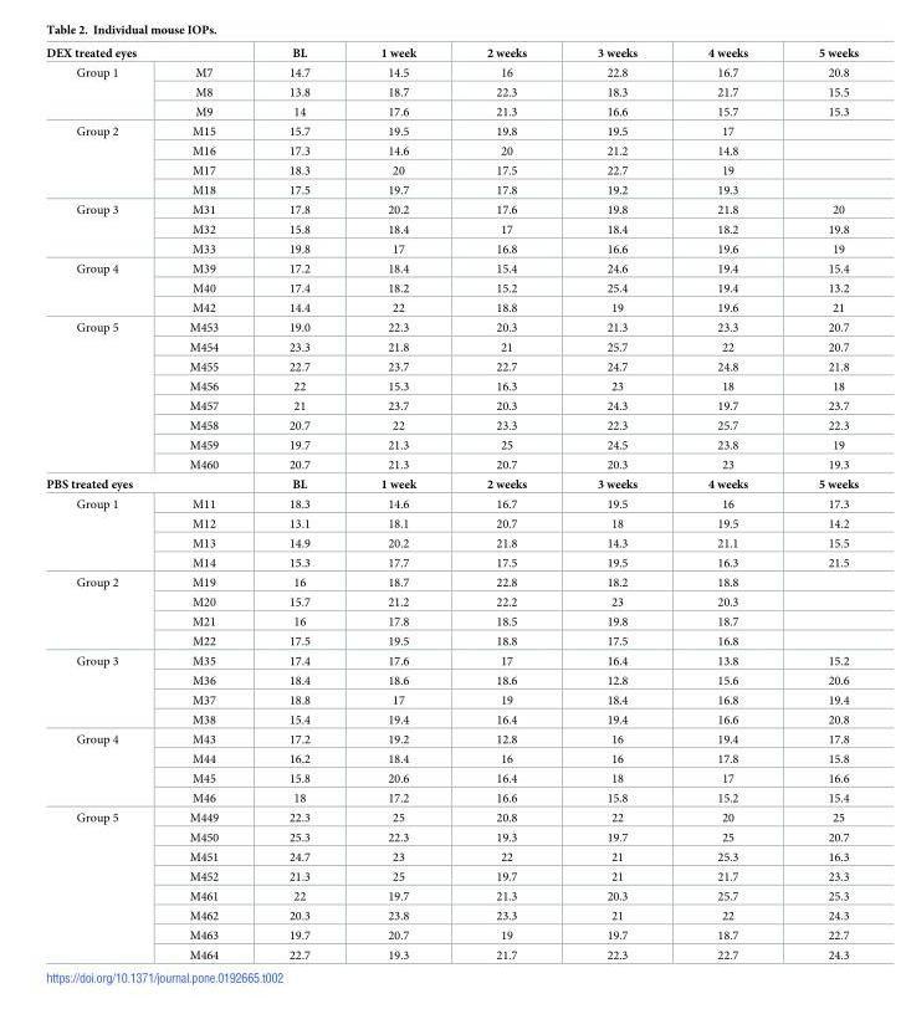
<table><tbody><tr><td colspan="2">DEX treated eyes</td><td>BL</td><td>1 week</td><td>2 weeks</td><td>3 weeks</td><td>4 weeks</td><td>5 weeks</td></tr><tr><td rowspan="3">Group 1</td><td>M7</td><td>14.7</td><td>14.5</td><td>16</td><td>22.8</td><td>16.7</td><td>20.8</td></tr><tr><td>M8</td><td>13.8</td><td>18.7</td><td>22.3</td><td>18.3</td><td>21.7</td><td>15.5</td></tr><tr><td>M9</td><td>14</td><td>17.6</td><td>21.3</td><td>16.6</td><td>15.7</td><td>15.3</td></tr><tr><td rowspan="4">Group 2</td><td>M15</td><td>15.7</td><td>19.5</td><td>19.8</td><td>19.5</td><td>17</td><td></td></tr><tr><td>M16</td><td>17.3</td><td>14.6</td><td>20</td><td>21.2</td><td>14.8</td><td></td></tr><tr><td>M17</td><td>18.3</td><td>20</td><td>17.5</td><td>22.7</td><td>19</td><td></td></tr><tr><td>M18</td><td>17.5</td><td>19.7</td><td>17.8</td><td>19.2</td><td>19.3</td><td></td></tr><tr><td rowspan="3">Group 3</td><td>M31</td><td>17.8</td><td>20.2</td><td>17.6</td><td>19.8</td><td>21.8</td><td>20</td></tr><tr><td>M32</td><td>15.8</td><td>18.4</td><td>17</td><td>18.4</td><td>18.2</td><td>19.8</td></tr><tr><td>M33</td><td>19.8</td><td>17</td><td>16.8</td><td>16.6</td><td>19.6</td><td>19</td></tr><tr><td rowspan="3">Group 4</td><td>M39</td><td>17.2</td><td>18.4</td><td>15.4</td><td>24.6</td><td>19.4</td><td>15.4</td></tr><tr><td>M40</td><td>17.4</td><td>18.2</td><td>15.2</td><td>25.4</td><td>19.4</td><td>13.2</td></tr><tr><td>M42</td><td>14.4</td><td>22</td><td>18.8</td><td>19</td><td>19.6</td><td>21</td></tr><tr><td rowspan="8">Group 5</td><td>M453</td><td>19.0</td><td>22.3</td><td>20.3</td><td>21.3</td><td>23.3</td><td>20.7</td></tr><tr><td>M454</td><td>23.3</td><td>21.8</td><td>21</td><td>25.7</td><td>22</td><td>20.7</td></tr><tr><td>M455</td><td>22.7</td><td>23.7</td><td>22.7</td><td>24.7</td><td>24.8</td><td>21.8</td></tr><tr><td>M456</td><td>22</td><td>15.3</td><td>16.3</td><td>23</td><td>18</td><td>18</td></tr><tr><td>M457</td><td>21</td><td>23.7</td><td>20.3</td><td>24.3</td><td>19.7</td><td>23.7</td></tr><tr><td>M458</td><td>20.7</td><td>22</td><td>23.3</td><td>22.3</td><td>25.7</td><td>22.3</td></tr><tr><td>M459</td><td>19.7</td><td>21.3</td><td>25</td><td>24.5</td><td>23.8</td><td>19</td></tr><tr><td>M460</td><td>20.7</td><td>21.3</td><td>20.7</td><td>20.3</td><td>23</td><td>19.3</td></tr><tr><td colspan="2">PBS treated eyes</td><td>BL</td><td>1 week</td><td>2 weeks</td><td>3 weeks</td><td>4 weeks</td><td>5 weeks</td></tr><tr><td rowspan="4">Group 1</td><td>M11</td><td>18.3</td><td>14.6</td><td>16.7</td><td>19.5</td><td>16</td><td>17.3</td></tr><tr><td>M12</td><td>13.1</td><td>18.1</td><td>20.7</td><td>18</td><td>19.5</td><td>14.2</td></tr><tr><td>M13</td><td>14.9</td><td>20.2</td><td>21.8</td><td>14.3</td><td>21.1</td><td>15.5</td></tr><tr><td>M14</td><td>15.3</td><td>17.7</td><td>17.5</td><td>19.5</td><td>16.3</td><td>21.5</td></tr><tr><td rowspan="4">Group 2</td><td>M19</td><td>16</td><td>18.7</td><td>22.8</td><td>18.2</td><td>18.8</td><td></td></tr><tr><td>M20</td><td>15.7</td><td>21.2</td><td>22.2</td><td>23</td><td>20.3</td><td></td></tr><tr><td>M21</td><td>16</td><td>17.8</td><td>18.5</td><td>19.8</td><td>18.7</td><td></td></tr><tr><td>M22</td><td>17.5</td><td>19.5</td><td>18.8</td><td>17.5</td><td>16.8</td><td></td></tr><tr><td rowspan="4">Group 3</td><td>M35</td><td>17.4</td><td>17.6</td><td>17</td><td>16.4</td><td>13.8</td><td>15.2</td></tr><tr><td>M36</td><td>18.4</td><td>18.6</td><td>18.6</td><td>12.8</td><td>15.6</td><td>20.6</td></tr><tr><td>M37</td><td>18.8</td><td>17</td><td>19</td><td>18.4</td><td>16.8</td><td>19.4</td></tr><tr><td>M38</td><td>15.4</td><td>19.4</td><td>16.4</td><td>19.4</td><td>16.6</td><td>20.8</td></tr><tr><td rowspan="4">Group 4</td><td>M43</td><td>17.2</td><td>19.2</td><td>12.8</td><td>16</td><td>19.4</td><td>17.8</td></tr><tr><td>M44</td><td>16.2</td><td>18.4</td><td>16</td><td>16</td><td>17.8</td><td>15.8</td></tr><tr><td>M45</td><td>15.8</td><td>20.6</td><td>16.4</td><td>18</td><td>17</td><td>16.6</td></tr><tr><td>M46</td><td>18</td><td>17.2</td><td>16.6</td><td>15.8</td><td>15.2</td><td>15.4</td></tr><tr><td rowspan="8">Group 5</td><td>M449</td><td>22.3</td><td>25</td><td>20.8</td><td>22</td><td>20</td><td>25</td></tr><tr><td>M450</td><td>25.3</td><td>22.3</td><td>19.3</td><td>19.7</td><td>25</td><td>20.7</td></tr><tr><td>M451</td><td>24.7</td><td>23</td><td>22</td><td>21</td><td>25.3</td><td>16.3</td></tr><tr><td>M452</td><td>21.3</td><td>25</td><td>19.7</td><td>21</td><td>21.7</td><td>23.3</td></tr><tr><td>M461</td><td>22</td><td>19.7</td><td>21.3</td><td>20.3</td><td>25.7</td><td>25.3</td></tr><tr><td>M462</td><td>20.3</td><td>23.8</td><td>23.3</td><td>21</td><td>22</td><td>24.3</td></tr><tr><td>M463</td><td>19.7</td><td>20.7</td><td>19</td><td>19.7</td><td>18.7</td><td>22.7</td></tr><tr><td>M464</td><td>22.7</td><td>19.3</td><td>21.7</td><td>22.3</td><td>22.7</td><td>24.3</td></tr></tbody></table>